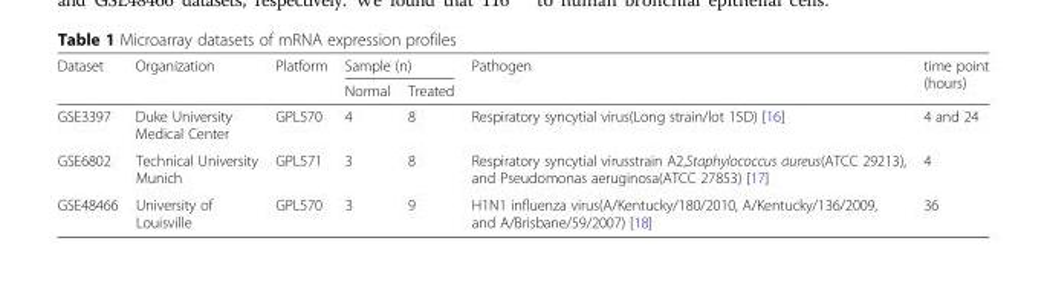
<table><thead><tr><td rowspan="2">Dataset</td><td rowspan="2">Organization</td><td rowspan="2">Platform</td><td colspan="2">Sample (n)</td><td rowspan="2">Pathogen</td><td rowspan="2">time point (hours)</td></tr><tr><td>Normal</td><td>Treated</td></tr></thead><tbody><tr><td>GSE3397</td><td>Duke University Medical Center</td><td>GPL570</td><td>4</td><td>8</td><td>Respiratory syncytial virus(Long strain/lot 15D) [16]</td><td>4 and 24</td></tr><tr><td>GSE6802</td><td>Technical University Munich</td><td>GPL571</td><td>3</td><td>8</td><td>Respiratory syncytial virusstrain A2,Staphylococcus aureus(ATCC 29213), and Pseudomonas aeruginosa(ATCC 27853) [17]</td><td>4</td></tr><tr><td>GSE48466</td><td>University of Louisville</td><td>GPL570</td><td>3</td><td>9</td><td>H1N1 influenza virus(A/Kentucky/180/2010, A/Kentucky/136/2009, and A/Brisbane/59/2007) [18]</td><td>36</td></tr></tbody></table>